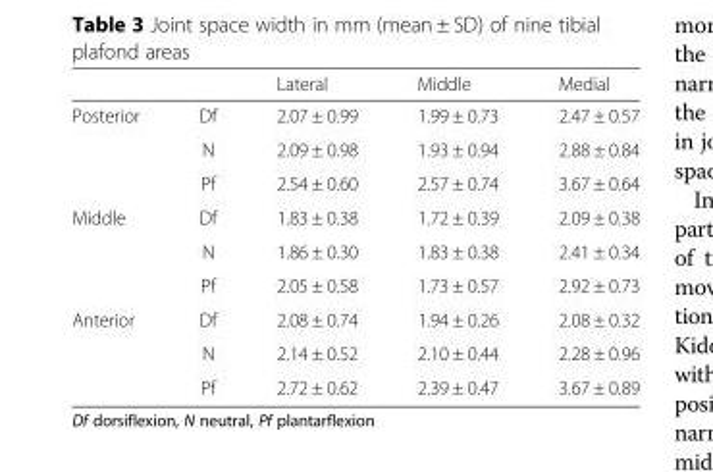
<table><thead><tr><td></td><td></td><td>Lateral</td><td>Middle</td><td>Medial</td></tr></thead><tbody><tr><td rowspan="3">Posterior</td><td>Df</td><td>2.07 ± 0.99</td><td>1.99 ± 0.73</td><td>2.47 ± 0.57</td></tr><tr><td>N</td><td>2.09 ± 0.98</td><td>1.93 ± 0.94</td><td>2.88 ± 0.84</td></tr><tr><td>Pf</td><td>2.54 ± 0.60</td><td>2.57 ± 0.74</td><td>3.67 ± 0.64</td></tr><tr><td rowspan="3">Middle</td><td>Df</td><td>1.83 ± 0.38</td><td>1.72 ± 0.39</td><td>2.09 ± 0.38</td></tr><tr><td>N</td><td>1.86 ± 0.30</td><td>1.83 ± 0.38</td><td>2.41 ± 0.34</td></tr><tr><td>Pf</td><td>2.05 ± 0.58</td><td>1.73 ± 0.57</td><td>2.92 ± 0.73</td></tr><tr><td rowspan="3">Anterior</td><td>Df</td><td>2.08 ± 0.74</td><td>1.94 ± 0.26</td><td>2.08 ± 0.32</td></tr><tr><td>N</td><td>2.14 ± 0.52</td><td>2.10 ± 0.44</td><td>2.28 ± 0.96</td></tr><tr><td>Pf</td><td>2.72 ± 0.62</td><td>2.39 ± 0.47</td><td>3.67 ± 0.89</td></tr></tbody></table>